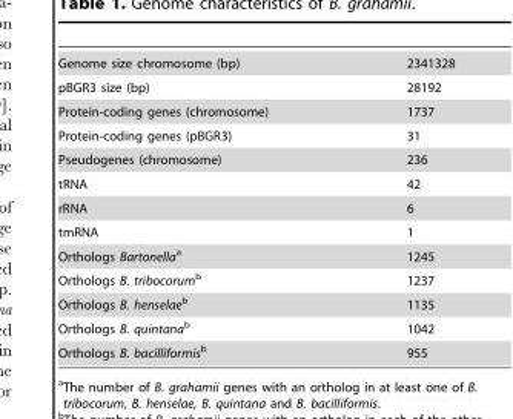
<table><tbody><tr><td>Genome size chromosome (bp)</td><td>2341328</td></tr><tr><td>pBGR3 size (bp)</td><td>28192</td></tr><tr><td>Protein-coding genes (chromosome)</td><td>1737</td></tr><tr><td>Protein-coding genes (pBGR3)</td><td>31</td></tr><tr><td>Pseudogenes (chromosome)</td><td>236</td></tr><tr><td>tRNA</td><td>42</td></tr><tr><td>rRNA</td><td>6</td></tr><tr><td>tmRNA</td><td>1</td></tr><tr><td>Orthologs Bartonellaa</td><td>1245</td></tr><tr><td>Orthologs B. tribocorumb</td><td>1237</td></tr><tr><td>Orthologs B. henselaeb</td><td>1135</td></tr><tr><td>Orthologs B. quintanab</td><td>1042</td></tr><tr><td>Orthologs B. bacilliformisb</td><td>955</td></tr></tbody></table>